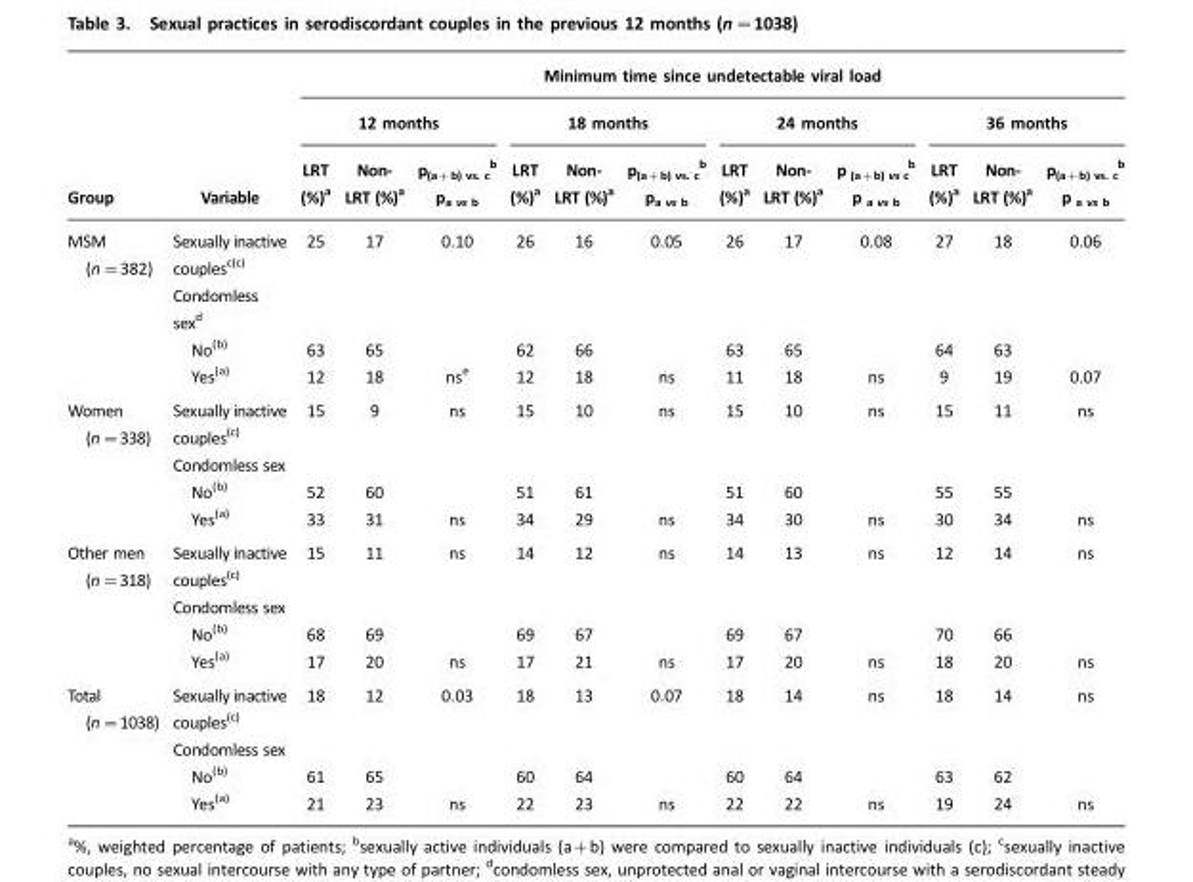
<table><thead><tr><td rowspan="3">Group</td><td rowspan="3">Variable</td><td colspan="12">Minimum time since undetectable viral load</td></tr><tr><td colspan="3">12 months</td><td colspan="3">18 months</td><td colspan="3">24 months</td><td colspan="3">36 months</td></tr><tr><td>LRT (%)<sup>a</sup></td><td>Non- LRT (%)<sup>a</sup></td><td>p<sub>(a+b) vs. c</sub> <sup>b</sup> p<sub>a vs b</sub></td><td>LRT (%)<sup>a</sup></td><td>Non- LRT (%)<sup>a</sup></td><td>p<sub>(a+b) vs. c</sub> <sup>b</sup> p<sub>a vs b</sub></td><td>LRT (%)<sup>a</sup></td><td>Non- LRT (%)<sup>a</sup></td><td>p <sub>(a+b) vs c</sub> <sup>b</sup> p <sub>a vs b</sub></td><td>LRT (%)<sup>a</sup></td><td>Non- LRT (%)<sup>a</sup></td><td>p<sub>(a+b) vs. c</sub> <sup>b</sup> p <sub>a vs b</sub></td></tr></thead><tbody><tr><td rowspan="4">MSM (n=382)</td><td>Sexually inactive couples<sup>c(c)</sup></td><td>25</td><td>17</td><td>0.10</td><td>26</td><td>16</td><td>0.05</td><td>26</td><td>17</td><td>0.08</td><td>27</td><td>18</td><td>0.06</td></tr><tr><td>Condomless sex<sup>d</sup></td><td></td><td></td><td></td><td></td><td></td><td></td><td></td><td></td><td></td><td></td><td></td><td></td></tr><tr><td>No<sup>(b)</sup></td><td>63</td><td>65</td><td></td><td>62</td><td>66</td><td></td><td>63</td><td>65</td><td></td><td>64</td><td>63</td><td></td></tr><tr><td>Yes<sup>(a)</sup></td><td>12</td><td>18</td><td>ns<sup>e</sup></td><td>12</td><td>18</td><td>ns</td><td>11</td><td>18</td><td>ns</td><td>9</td><td>19</td><td>0.07</td></tr><tr><td rowspan="4">Women (n=338)</td><td>Sexually inactive couples<sup>(c)</sup></td><td>15</td><td>9</td><td>ns</td><td>15</td><td>10</td><td>ns</td><td>15</td><td>10</td><td>ns</td><td>15</td><td>11</td><td>ns</td></tr><tr><td>Condomless sex</td><td></td><td></td><td></td><td></td><td></td><td></td><td></td><td></td><td></td><td></td><td></td><td></td></tr><tr><td>No<sup>(b)</sup></td><td>52</td><td>60</td><td></td><td>51</td><td>61</td><td></td><td>51</td><td>60</td><td></td><td>55</td><td>55</td><td></td></tr><tr><td>Yes<sup>(a)</sup></td><td>33</td><td>31</td><td>ns</td><td>34</td><td>29</td><td>ns</td><td>34</td><td>30</td><td>ns</td><td>30</td><td>34</td><td>ns</td></tr><tr><td rowspan="4">Other men (n=318)</td><td>Sexually inactive couples<sup>(c)</sup></td><td>15</td><td>11</td><td>ns</td><td>14</td><td>12</td><td>ns</td><td>14</td><td>13</td><td>ns</td><td>12</td><td>14</td><td>ns</td></tr><tr><td>Condomless sex</td><td></td><td></td><td></td><td></td><td></td><td></td><td></td><td></td><td></td><td></td><td></td><td></td></tr><tr><td>No<sup>(b)</sup></td><td>68</td><td>69</td><td></td><td>69</td><td>67</td><td></td><td>69</td><td>67</td><td></td><td>70</td><td>66</td><td></td></tr><tr><td>Yes<sup>(a)</sup></td><td>17</td><td>20</td><td>ns</td><td>17</td><td>21</td><td>ns</td><td>17</td><td>20</td><td>ns</td><td>18</td><td>20</td><td>ns</td></tr><tr><td rowspan="4">Total (n=1038)</td><td>Sexually inactive couples<sup>(c)</sup></td><td>18</td><td>12</td><td>0.03</td><td>18</td><td>13</td><td>0.07</td><td>18</td><td>14</td><td>ns</td><td>18</td><td>14</td><td>ns</td></tr><tr><td>Condomless sex</td><td></td><td></td><td></td><td></td><td></td><td></td><td></td><td></td><td></td><td></td><td></td><td></td></tr><tr><td>No<sup>(b)</sup></td><td>61</td><td>65</td><td></td><td>60</td><td>64</td><td></td><td>60</td><td>64</td><td></td><td>63</td><td>62</td><td></td></tr><tr><td>Yes<sup>(a)</sup></td><td>21</td><td>23</td><td>ns</td><td>22</td><td>23</td><td>ns</td><td>22</td><td>22</td><td>ns</td><td>19</td><td>24</td><td>ns</td></tr></tbody></table>